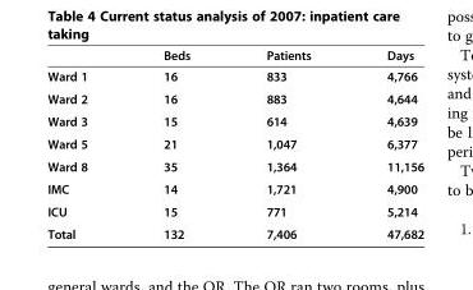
<table><thead><tr><td></td><td>Beds</td><td>Patients</td><td>Days</td></tr></thead><tbody><tr><td>Ward 1</td><td>16</td><td>833</td><td>4,766</td></tr><tr><td>Ward 2</td><td>16</td><td>883</td><td>4,644</td></tr><tr><td>Ward 3</td><td>15</td><td>614</td><td>4,639</td></tr><tr><td>Ward 5</td><td>21</td><td>1,047</td><td>6,377</td></tr><tr><td>Ward 8</td><td>35</td><td>1,364</td><td>11,156</td></tr><tr><td>IMC</td><td>14</td><td>1,721</td><td>4,900</td></tr><tr><td>ICU</td><td>15</td><td>771</td><td>5,214</td></tr><tr><td>Total</td><td>132</td><td>7,406</td><td>47,682</td></tr></tbody></table>